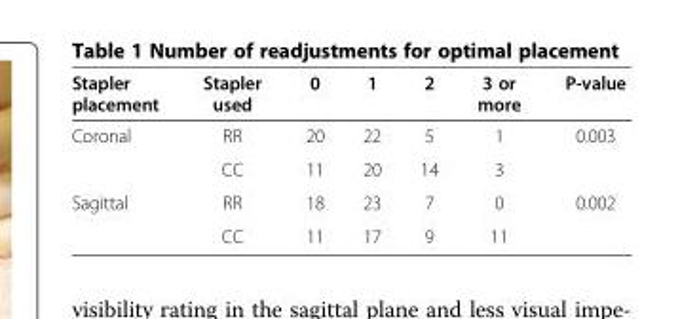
<table><thead><tr><td>Stapler placement</td><td>Stapler used</td><td>0</td><td>1</td><td>2</td><td>3 or more</td><td>P-value</td></tr></thead><tbody><tr><td rowspan="2">Coronal</td><td>RR</td><td>20</td><td>22</td><td>5</td><td>1</td><td rowspan="2">0.003</td></tr><tr><td>CC</td><td>11</td><td>20</td><td>14</td><td>3</td></tr><tr><td rowspan="2">Sagittal</td><td>RR</td><td>18</td><td>23</td><td>7</td><td>0</td><td>0.002</td></tr><tr><td>CC</td><td>11</td><td>17</td><td>9</td><td>11</td><td></td></tr></tbody></table>